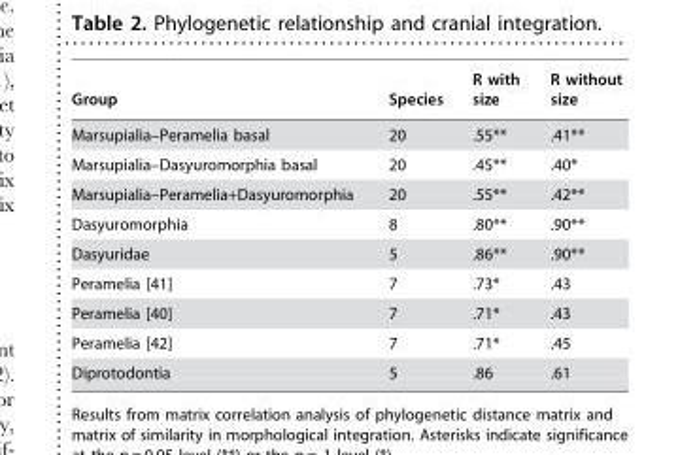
<table><thead><tr><td>Group</td><td>Species</td><td>R with size</td><td>R without size</td></tr></thead><tbody><tr><td>Marsupialia–Peramelia basal</td><td>20</td><td>.55**</td><td>.41**</td></tr><tr><td>Marsupialia–Dasyuromorphia basal</td><td>20</td><td>.45**</td><td>.40*</td></tr><tr><td>Marsupialia–Peramelia+Dasyuromorphia</td><td>20</td><td>.55**</td><td>.42**</td></tr><tr><td>Dasyuromorphia</td><td>8</td><td>.80**</td><td>.90**</td></tr><tr><td>Dasyuridae</td><td>5</td><td>.86**</td><td>.90**</td></tr><tr><td>Peramelia [41]</td><td>7</td><td>.73*</td><td>.43</td></tr><tr><td>Peramelia [40]</td><td>7</td><td>.71*</td><td>.43</td></tr><tr><td>Peramelia [42]</td><td>7</td><td>.71*</td><td>.45</td></tr><tr><td>Diprotodontia</td><td>5</td><td>.86</td><td>.61</td></tr></tbody></table>